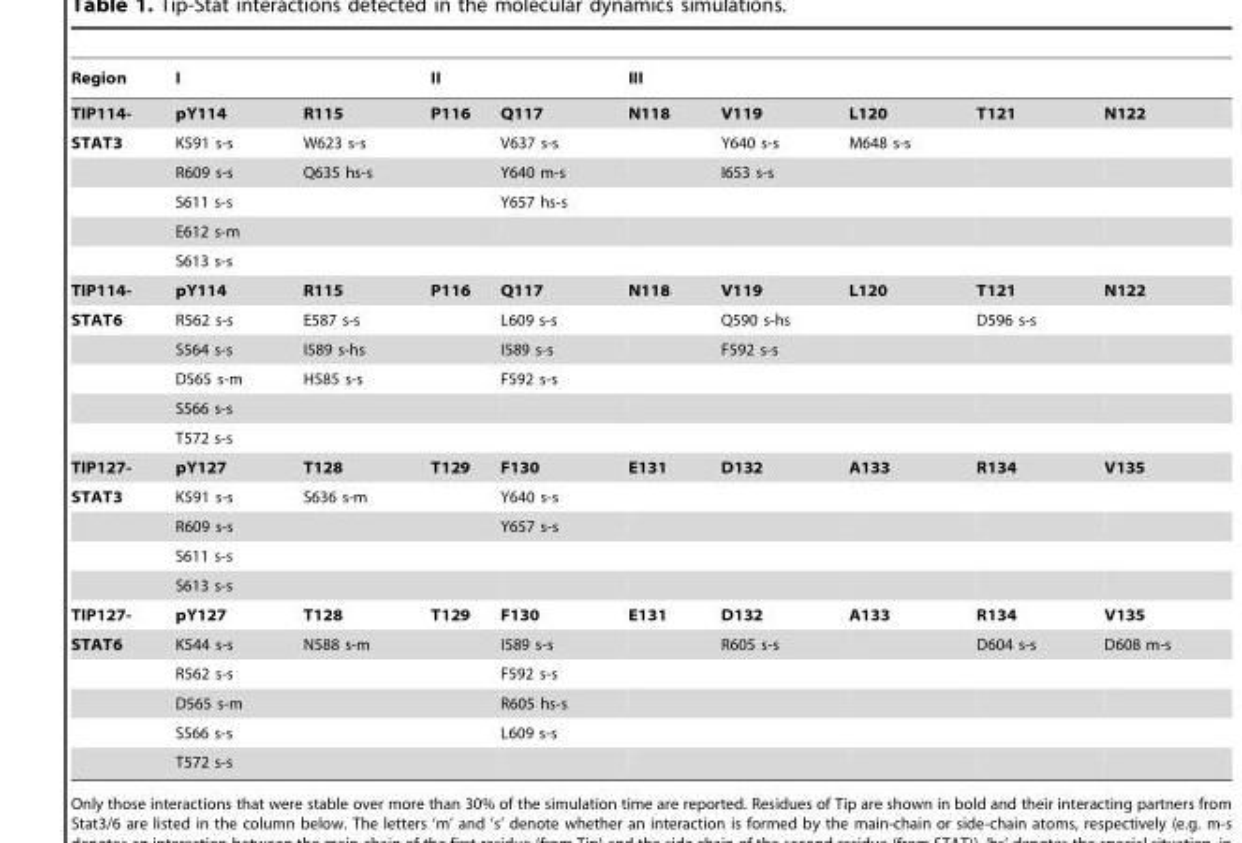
<table><thead><tr><td rowspan="2">Region TIP114-</td><td colspan="2">I</td><td colspan="2">II</td><td colspan="5">III</td></tr><tr><td>pY114</td><td>R115</td><td>P116</td><td>Q117</td><td>N118</td><td>V119</td><td>L120</td><td>T121</td><td>N122</td></tr></thead><tbody><tr><td rowspan="5">STAT3</td><td>K591 s-s</td><td>W623 s-s</td><td></td><td>V637 s-s</td><td></td><td>Y640 s-s</td><td>M648 s-s</td><td></td><td></td></tr><tr><td>R609 s-s</td><td>Q635 hs-s</td><td></td><td>Y640 m-s</td><td></td><td>I653 s-s</td><td></td><td></td><td></td></tr><tr><td>S611 s-s</td><td></td><td></td><td>Y657 hs-s</td><td></td><td></td><td></td><td></td><td></td></tr><tr><td>E612 s-m</td><td></td><td></td><td></td><td></td><td></td><td></td><td></td><td></td></tr><tr><td>S613 s-s</td><td></td><td></td><td></td><td></td><td></td><td></td><td></td><td></td></tr><tr><td>TIP114-</td><td>pY114</td><td>R115</td><td>P116</td><td>Q117</td><td>N118</td><td>V119</td><td>L120</td><td>T121</td><td>N122</td></tr><tr><td rowspan="5">STAT6</td><td>R562 s-s</td><td>E587 s-s</td><td></td><td>L609 s-s</td><td></td><td>Q590 s-hs</td><td></td><td>D596 s-s</td><td></td></tr><tr><td>S564 s-s</td><td>I589 s-hs</td><td></td><td>I589 s-s</td><td></td><td>F592 s-s</td><td></td><td></td><td></td></tr><tr><td>D565 s-m</td><td>H585 s-s</td><td></td><td>F592 s-s</td><td></td><td></td><td></td><td></td><td></td></tr><tr><td>S566 s-s</td><td></td><td></td><td></td><td></td><td></td><td></td><td></td><td></td></tr><tr><td>T572 s-s</td><td></td><td></td><td></td><td></td><td></td><td></td><td></td><td></td></tr><tr><td>TIP127-</td><td>pY127</td><td>T128</td><td>T129</td><td>F130</td><td>E131</td><td>D132</td><td>A133</td><td>R134</td><td>V135</td></tr><tr><td rowspan="4">STAT3</td><td>K591 s-s</td><td>S636 s-m</td><td></td><td>Y640 s-s</td><td></td><td></td><td></td><td></td><td></td></tr><tr><td>R609 s-s</td><td></td><td></td><td>Y657 s-s</td><td></td><td></td><td></td><td></td><td></td></tr><tr><td>S611 s-s</td><td></td><td></td><td></td><td></td><td></td><td></td><td></td><td></td></tr><tr><td>S613 s-s</td><td></td><td></td><td></td><td></td><td></td><td></td><td></td><td></td></tr><tr><td>TIP127-</td><td>pY127</td><td>T128</td><td>T129</td><td>F130</td><td>E131</td><td>D132</td><td>A133</td><td>R134</td><td>V135</td></tr><tr><td rowspan="5">STAT6</td><td>K544 s-s</td><td>N588 s-m</td><td></td><td>I589 s-s</td><td></td><td>R605 s-s</td><td></td><td>D604 s-s</td><td>D608 m-s</td></tr><tr><td>R562 s-s</td><td></td><td></td><td>F592 s-s</td><td></td><td></td><td></td><td></td><td></td></tr><tr><td>D565 s-m</td><td></td><td></td><td>R605 hs-s</td><td></td><td></td><td></td><td></td><td></td></tr><tr><td>S566 s-s</td><td></td><td></td><td>L609 s-s</td><td></td><td></td><td></td><td></td><td></td></tr><tr><td>T572 s-s</td><td></td><td></td><td></td><td></td><td></td><td></td><td></td><td></td></tr></tbody></table>